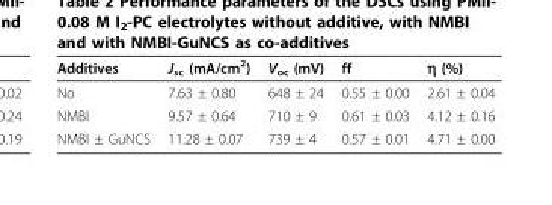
<table><thead><tr><td>Additives</td><td>J<sub>sc</sub> (mA/cm<sup>2</sup>)</td><td>V<sub>oc</sub> (mV)</td><td>ff</td><td>η (%)</td></tr></thead><tbody><tr><td>No</td><td>7.63 ± 0.80</td><td>648 ± 24</td><td>0.55 ± 0.00</td><td>2.61 ± 0.04</td></tr><tr><td>NMBI</td><td>9.57 ± 0.64</td><td>710 ± 9</td><td>0.61 ± 0.03</td><td>4.12 ± 0.16</td></tr><tr><td>NMBI ± GuNCS</td><td>11.28 ± 0.07</td><td>739 ± 4</td><td>0.57 ± 0.01</td><td>4.71 ± 0.00</td></tr></tbody></table>